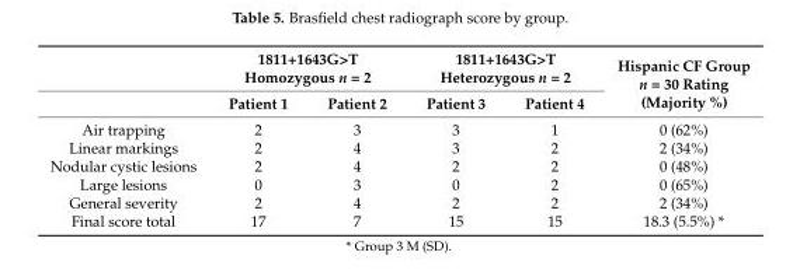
<table><thead><tr><td rowspan="2"></td><td colspan="2">1811+1643G&gt;T Homozygous n = 2</td><td colspan="2">1811+1643G&gt;T Heterozygous n = 2</td><td rowspan="2">Hispanic CF Group n = 30 Rating (Majority %)</td></tr><tr><td>Patient 1</td><td>Patient 2</td><td>Patient 3</td><td>Patient 4</td></tr></thead><tbody><tr><td>Air trapping</td><td>2</td><td>3</td><td>3</td><td>1</td><td>0 (62%)</td></tr><tr><td>Linear markings</td><td>2</td><td>4</td><td>3</td><td>2</td><td>2 (34%)</td></tr><tr><td>Nodular cystic lesions</td><td>2</td><td>4</td><td>2</td><td>2</td><td>0 (48%)</td></tr><tr><td>Large lesions</td><td>0</td><td>3</td><td>0</td><td>2</td><td>0 (65%)</td></tr><tr><td>General severity</td><td>2</td><td>4</td><td>2</td><td>2</td><td>2 (34%)</td></tr><tr><td>Final score total</td><td>17</td><td>7</td><td>15</td><td>15</td><td>18.3 (5.5%) *</td></tr></tbody></table>